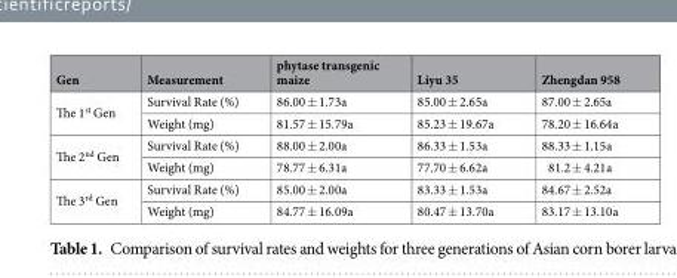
<table><thead><tr><td>Gen</td><td>Measurement</td><td>phytase transgenic maize</td><td>Liyu 35</td><td>Zhengdan 958</td></tr></thead><tbody><tr><td rowspan="2">The 1<sup>st</sup> Gen</td><td>Survival Rate (%)</td><td>86.00 ± 1.73a</td><td>85.00 ± 2.65a</td><td>87.00 ± 2.65a</td></tr><tr><td>Weight (mg)</td><td>81.57 ± 15.79a</td><td>85.23 ± 19.67a</td><td>78.20 ± 16.64a</td></tr><tr><td rowspan="2">The 2<sup>nd</sup> Gen</td><td>Survival Rate (%)</td><td>88.00 ± 2.00a</td><td>86.33 ± 1.53a</td><td>88.33 ± 1.15a</td></tr><tr><td>Weight (mg)</td><td>78.77 ± 6.31a</td><td>77.70 ± 6.62a</td><td>81.2 ± 4.21a</td></tr><tr><td rowspan="2">The 3<sup>rd</sup> Gen</td><td>Survival Rate (%)</td><td>85.00 ± 2.00a</td><td>83.33 ± 1.53a</td><td>84.67 ± 2.52a</td></tr><tr><td>Weight (mg)</td><td>84.77 ± 16.09a</td><td>80.47 ± 13.70a</td><td>83.17 ± 13.10a</td></tr></tbody></table>